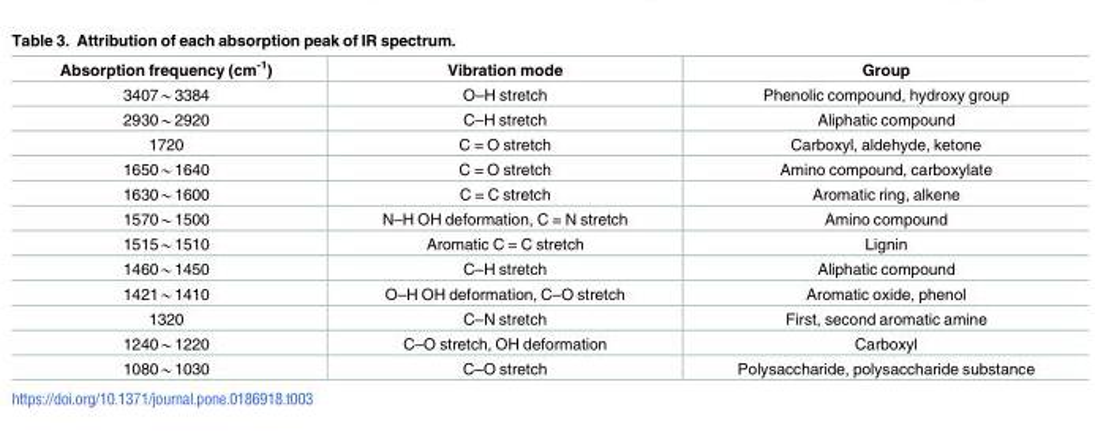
<table><thead><tr><td>Absorption frequency (cm<sup>-1</sup>)</td><td>Vibration mode</td><td>Group</td></tr></thead><tbody><tr><td>3407*3384</td><td>O–H stretch</td><td>Phenolic compound, hydroxy group</td></tr><tr><td>2930*2920</td><td>C–H stretch</td><td>Aliphatic compound</td></tr><tr><td>1720</td><td>C = O stretch</td><td>Carboxyl, aldehyde, ketone</td></tr><tr><td>1650*1640</td><td>C = O stretch</td><td>Amino compound, carboxylate</td></tr><tr><td>1630*1600</td><td>C = C stretch</td><td>Aromatic ring, alkene</td></tr><tr><td>1570*1500</td><td>N–H OH deformation, C = N stretch</td><td>Amino compound</td></tr><tr><td>1515*1510</td><td>Aromatic C = C stretch</td><td>Lignin</td></tr><tr><td>1460*1450</td><td>C–H stretch</td><td>Aliphatic compound</td></tr><tr><td>1421*1410</td><td>O–H OH deformation, C–O stretch</td><td>Aromatic oxide, phenol</td></tr><tr><td>1320</td><td>C–N stretch</td><td>First, second aromatic amine</td></tr><tr><td>1240*1220</td><td>C–O stretch, OH deformation</td><td>Carboxyl</td></tr><tr><td>1080*1030</td><td>C–O stretch</td><td>Polysaccharide, polysaccharide substance</td></tr></tbody></table>